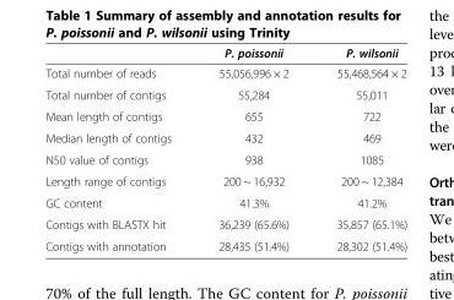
<table><thead><tr><td></td><td>P. poissonii</td><td>P. wilsonii</td></tr></thead><tbody><tr><td>Total number of reads</td><td>55,056,996 × 2</td><td>55,468,564 × 2</td></tr><tr><td>Total number of contigs</td><td>55,284</td><td>55,011</td></tr><tr><td>Mean length of contigs</td><td>655</td><td>722</td></tr><tr><td>Median length of contigs</td><td>432</td><td>469</td></tr><tr><td>N50 value of contigs</td><td>938</td><td>1085</td></tr><tr><td>Length range of contigs</td><td>200 ~ 16,932</td><td>200 ~ 12,384</td></tr><tr><td>GC content</td><td>41.3%</td><td>41.2%</td></tr><tr><td>Contigs with BLASTX hit</td><td>36,239 (65.6%)</td><td>35,857 (65.1%)</td></tr><tr><td>Contigs with annotation</td><td>28,435 (51.4%)</td><td>28,302 (51.4%)</td></tr></tbody></table>